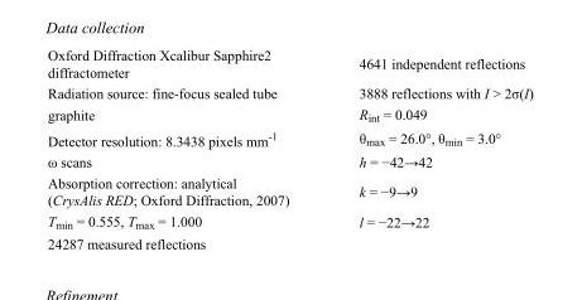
<table><tbody><tr><td>Oxford Diffraction Xcalibur Sapphire2 diffractometer</td><td>4641 independent reflections</td></tr><tr><td>Radiation source: fine-focus sealed tube</td><td>3888 reflections with I &gt; 2σ(I)</td></tr><tr><td>graphite</td><td>R<sub>int</sub> = 0.049</td></tr><tr><td>Detector resolution: 8.3438 pixels mm<sup>-1</sup></td><td>θ<sub>max</sub> = 26.0°, θ<sub>min</sub> = 3.0°</td></tr><tr><td>ω scans</td><td>h = −42→42</td></tr><tr><td>Absorption correction: analytical (CrysAlis RED; Oxford Diffraction, 2007)</td><td>k = −9→9</td></tr><tr><td>T<sub>min</sub> = 0.555, T<sub>max</sub> = 1.000</td><td>l = −22→22</td></tr><tr><td>24287 measured reflections</td><td></td></tr></tbody></table>